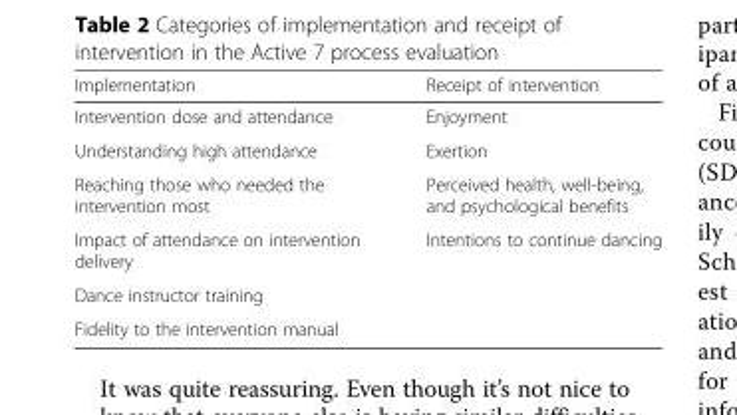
<table><thead><tr><td>Implementation</td><td>Receipt of intervention</td></tr></thead><tbody><tr><td>Intervention dose and attendance</td><td>Enjoyment</td></tr><tr><td>Understanding high attendance</td><td>Exertion</td></tr><tr><td>Reaching those who needed the intervention most</td><td>Perceived health, well-being, and psychological benefits</td></tr><tr><td>Impact of attendance on intervention delivery</td><td>Intentions to continue dancing</td></tr><tr><td colspan="2">Dance instructor training</td></tr><tr><td>Fidelity to the intervention manual</td><td></td></tr></tbody></table>